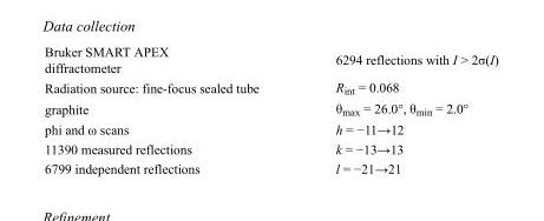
<table><tbody><tr><td>Bruker SMART APEX diffractometer</td><td>6294 reflections with I &gt; 2σ(I)</td></tr><tr><td>Radiation source: fine-focus sealed tube</td><td>R<sub>int</sub> = 0.068</td></tr><tr><td>graphite</td><td>θ<sub>max</sub> = 26.0°, θ<sub>min</sub> = 2.0°</td></tr><tr><td>phi and ω scans</td><td>h = −11→12</td></tr><tr><td>11390 measured reflections</td><td>k = −13→13</td></tr><tr><td>6799 independent reflections</td><td>l = −21→21</td></tr></tbody></table>